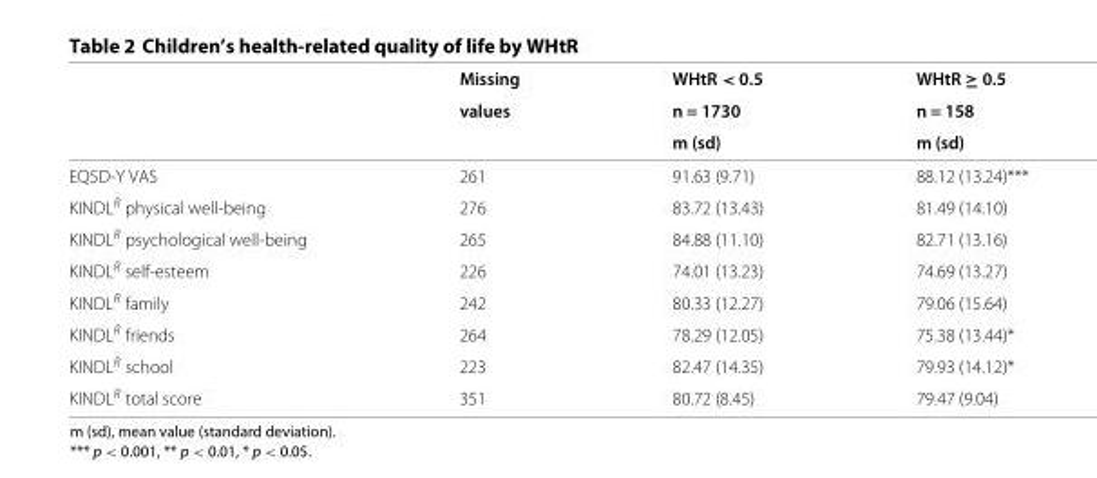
<table><thead><tr><td></td><td>Missing values</td><td>WHtR &lt; 0.5 n = 1730 m (sd)</td><td>WHtR ≥ 0.5 n = 158 m (sd)</td></tr></thead><tbody><tr><td>EQ5D-Y VAS</td><td>261</td><td>91.63 (9.71)</td><td>88.12 (13.24)***</td></tr><tr><td>KINDL<sup>R</sup> physical well-being</td><td>276</td><td>83.72 (13.43)</td><td>81.49 (14.10)</td></tr><tr><td>KINDL<sup>R</sup> psychological well-being</td><td>265</td><td>84.88 (11.10)</td><td>82.71 (13.16)</td></tr><tr><td>KINDL<sup>R</sup> self-esteem</td><td>226</td><td>74.01 (13.23)</td><td>74.69 (13.27)</td></tr><tr><td>KINDL<sup>R</sup> family</td><td>242</td><td>80.33 (12.27)</td><td>79.06 (15.64)</td></tr><tr><td>KINDL<sup>R</sup> friends</td><td>264</td><td>78.29 (12.05)</td><td>75.38 (13.44)*</td></tr><tr><td>KINDL<sup>R</sup> school</td><td>223</td><td>82.47 (14.35)</td><td>79.93 (14.12)*</td></tr><tr><td>KINDL<sup>R</sup> total score</td><td>351</td><td>80.72 (8.45)</td><td>79.47 (9.04)</td></tr></tbody></table>